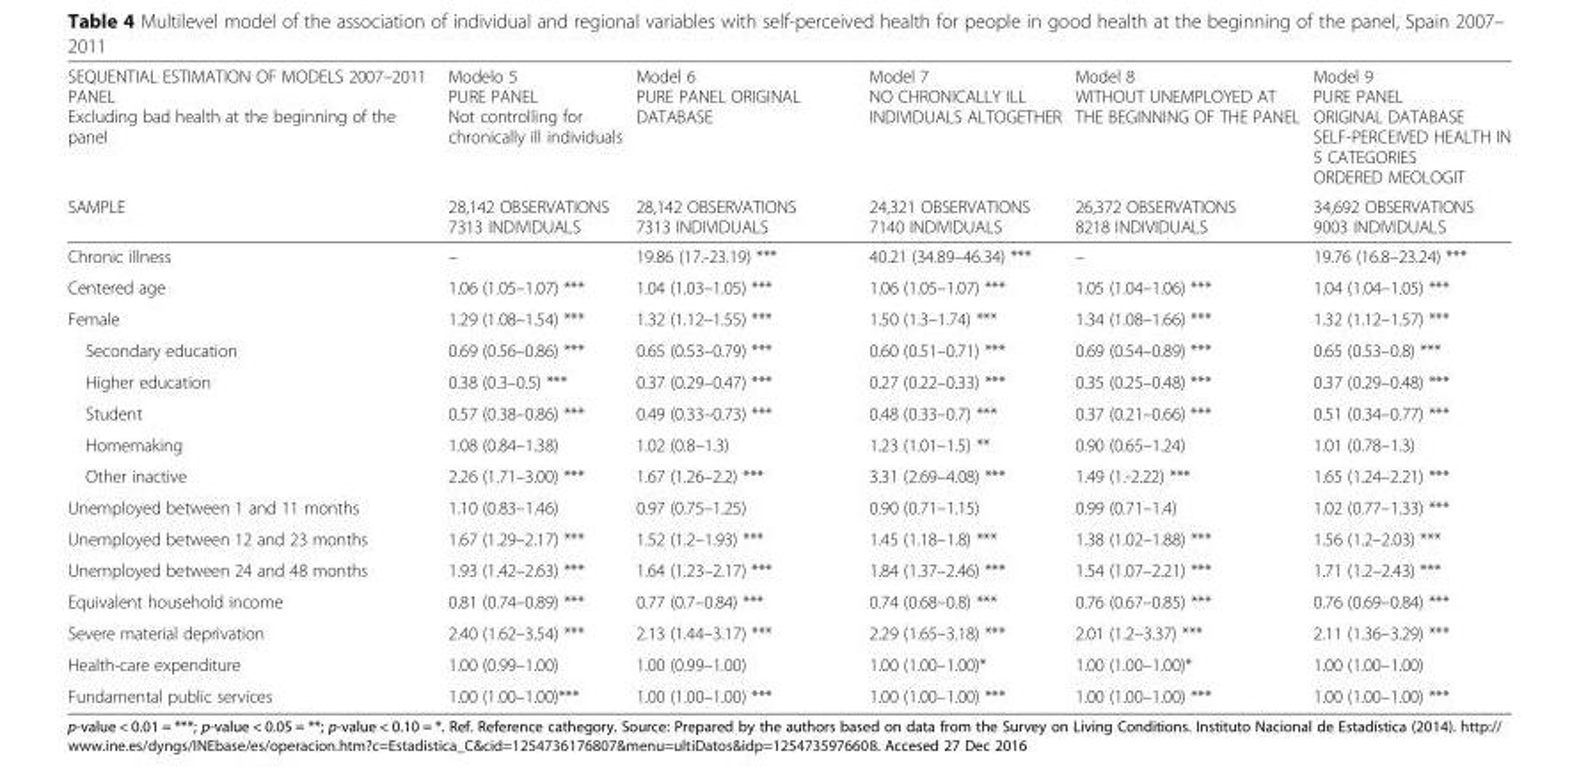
<table><thead><tr><td rowspan="2">SEQUENTIAL ESTIMATION OF MODELS 2007–2011 PANEL Excluding bad health at the beginning of the panel SAMPLE</td><td rowspan="2">Modelo 5 PURE PANEL Not controlling for chronically ill individuals 28,142 OBSERVATIONS 7313 INDIVIDUALS</td><td rowspan="2">Model 6 PURE PANEL ORIGINAL DATABASE 28,142 OBSERVATIONS 7313 INDIVIDUALS</td><td rowspan="2">Model 7 NO CHRONICALLY ILL INDIVIDUALS ALTOGETHER 24,321 OBSERVATIONS 7140 INDIVIDUALS</td><td rowspan="2">Model 8 WITHOUT UNEMPLOYED AT THE BEGINNING OF THE PANEL 26,372 OBSERVATIONS 8218 INDIVIDUALS</td><td rowspan="2">Model 9 PURE PANEL ORIGINAL DATABASE SELF-PERCEIVED HEALTH IN 5 CATEGORIES ORDERED MEOLOGIT 34,692 OBSERVATIONS 9003 INDIVIDUALS</td></tr><tr></tr></thead><tbody><tr><td>Chronic illness</td><td>–</td><td>19.86 (17.-23.19) ***</td><td>40.21 (34.89–46.34) ***</td><td>–</td><td>19.76 (16.8–23.24) ***</td></tr><tr><td>Centered age</td><td>1.06 (1.05–1.07) ***</td><td>1.04 (1.03–1.05) ***</td><td>1.06 (1.05–1.07) ***</td><td>1.05 (1.04–1.06) ***</td><td>1.04 (1.04–1.05) ***</td></tr><tr><td>Female</td><td>1.29 (1.08–1.54) ***</td><td>1.32 (1.12–1.55) ***</td><td>1.50 (1.3–1.74) ***</td><td>1.34 (1.08–1.66) ***</td><td>1.32 (1.12–1.57) ***</td></tr><tr><td>Secondary education</td><td>0.69 (0.56–0.86) ***</td><td>0.65 (0.53–0.79) ***</td><td>0.60 (0.51–0.71) ***</td><td>0.69 (0.54–0.89) ***</td><td>0.65 (0.53–0.8) ***</td></tr><tr><td>Higher education</td><td>0.38 (0.3–0.5) ***</td><td>0.37 (0.29–0.47) ***</td><td>0.27 (0.22–0.33) ***</td><td>0.35 (0.25–0.48) ***</td><td>0.37 (0.29–0.48) ***</td></tr><tr><td>Student</td><td>0.57 (0.38–0.86) ***</td><td>0.49 (0.33–0.73) ***</td><td>0.48 (0.33–0.7) ***</td><td>0.37 (0.21–0.66) ***</td><td>0.51 (0.34–0.77) ***</td></tr><tr><td>Homemaking</td><td>1.08 (0.84–1.38)</td><td>1.02 (0.8–1.3)</td><td>1.23 (1.01–1.5) **</td><td>0.90 (0.65–1.24)</td><td>1.01 (0.78–1.3)</td></tr><tr><td>Other inactive</td><td>2.26 (1.71–3.00) ***</td><td>1.67 (1.26–2.2) ***</td><td>3.31 (2.69–4.08) ***</td><td>1.49 (1.-2.22) ***</td><td>1.65 (1.24–2.21) ***</td></tr><tr><td>Unemployed between 1 and 11 months</td><td>1.10 (0.83–1.46)</td><td>0.97 (0.75–1.25)</td><td>0.90 (0.71–1.15)</td><td>0.99 (0.71–1.4)</td><td>1.02 (0.77–1.33) ***</td></tr><tr><td>Unemployed between 12 and 23 months</td><td>1.67 (1.29–2.17) ***</td><td>1.52 (1.2–1.93) ***</td><td>1.45 (1.18–1.8) ***</td><td>1.38 (1.02–1.88) ***</td><td>1.56 (1.2–2.03) ***</td></tr><tr><td>Unemployed between 24 and 48 months</td><td>1.93 (1.42–2.63) ***</td><td>1.64 (1.23–2.17) ***</td><td>1.84 (1.37–2.46) ***</td><td>1.54 (1.07–2.21) ***</td><td>1.71 (1.2–2.43) ***</td></tr><tr><td>Equivalent household income</td><td>0.81 (0.74–0.89) ***</td><td>0.77 (0.7–0.84) ***</td><td>0.74 (0.68–0.8) ***</td><td>0.76 (0.67–0.85) ***</td><td>0.76 (0.69–0.84) ***</td></tr><tr><td>Severe material deprivation</td><td>2.40 (1.62–3.54) ***</td><td>2.13 (1.44–3.17) ***</td><td>2.29 (1.65–3.18) ***</td><td>2.01 (1.2–3.37) ***</td><td>2.11 (1.36–3.29) ***</td></tr><tr><td>Health-care expenditure</td><td>1.00 (0.99–1.00)</td><td>1.00 (0.99–1.00)</td><td>1.00 (1.00–1.00)*</td><td>1.00 (1.00–1.00)*</td><td>1.00 (1.00–1.00)</td></tr><tr><td>Fundamental public services</td><td>1.00 (1.00–1.00)***</td><td>1.00 (1.00–1.00) ***</td><td>1.00 (1.00–1.00) ***</td><td>1.00 (1.00–1.00) ***</td><td>1.00 (1.00–1.00) ***</td></tr></tbody></table>